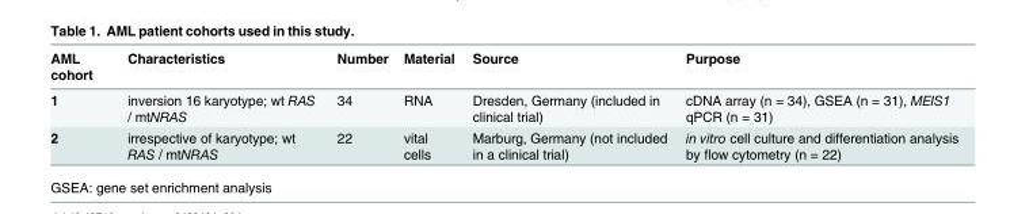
<table><thead><tr><td>AML cohort</td><td>Characteristics</td><td>Number</td><td>Material</td><td>Source</td><td>Purpose</td></tr></thead><tbody><tr><td>1</td><td>inversion 16 karyotype; wt RAS / mtNRAS</td><td>34</td><td>RNA</td><td>Dresden, Germany (included in clinical trial)</td><td>cDNA array (n = 34), GSEA (n = 31), MEIS1 qPCR (n = 31)</td></tr><tr><td>2</td><td>irrespective of karyotype; wt RAS / mtNRAS</td><td>22</td><td>vital cells</td><td>Marburg, Germany (not included in a clinical trial)</td><td>in vitro cell culture and differentiation analysis by flow cytometry (n = 22)</td></tr></tbody></table>